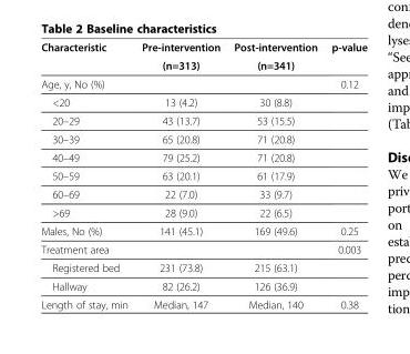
<table><thead><tr><td rowspan="2">Characteristic</td><td rowspan="2">Pre-intervention (n=313)</td><td rowspan="2">Post-intervention (n=341)</td><td rowspan="2">p-value</td></tr><tr></tr></thead><tbody><tr><td>Age, y, No (%)</td><td></td><td></td><td>0.12</td></tr><tr><td>&lt;20</td><td>13 (4.2)</td><td>30 (8.8)</td><td></td></tr><tr><td>20–29</td><td>43 (13.7)</td><td>53 (15.5)</td><td></td></tr><tr><td>30–39</td><td>65 (20.8)</td><td>71 (20.8)</td><td></td></tr><tr><td>40–49</td><td>79 (25.2)</td><td>71 (20.8)</td><td></td></tr><tr><td>50–59</td><td>63 (20.1)</td><td>61 (17.9)</td><td></td></tr><tr><td>60–69</td><td>22 (7.0)</td><td>33 (9.7)</td><td></td></tr><tr><td>&gt;69</td><td>28 (9.0)</td><td>22 (6.5)</td><td></td></tr><tr><td>Males, No (%)</td><td>141 (45.1)</td><td>169 (49.6)</td><td>0.25</td></tr><tr><td>Treatment area</td><td></td><td></td><td>0.003</td></tr><tr><td>Registered bed</td><td>231 (73.8)</td><td>215 (63.1)</td><td></td></tr><tr><td>Hallway</td><td>82 (26.2)</td><td>126 (36.9)</td><td></td></tr><tr><td>Length of stay, min</td><td>Median, 147</td><td>Median, 140</td><td>0.38</td></tr></tbody></table>